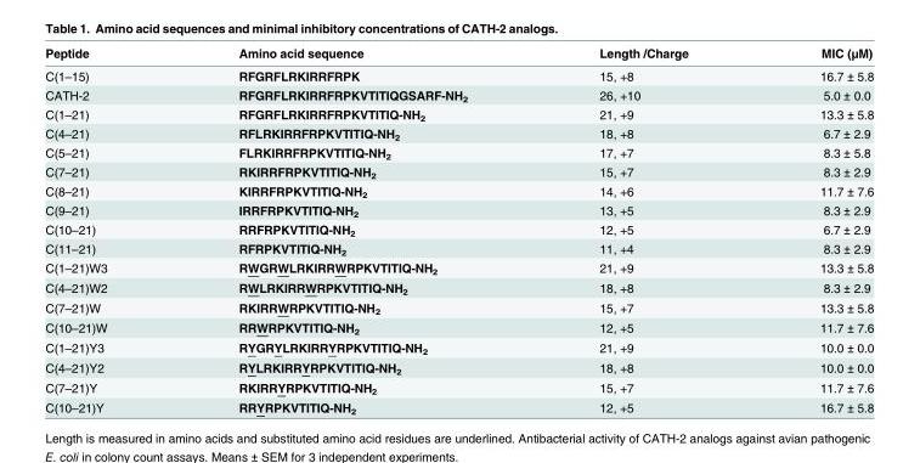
<table><thead><tr><td>Peptide</td><td>Amino acid sequence</td><td>Length /Charge</td><td>MIC (μM)</td></tr></thead><tbody><tr><td>C(1–15)</td><td>RFGRFLRKIRRFRPK</td><td>15, +8</td><td>16.7 ± 5.8</td></tr><tr><td>CATH-2</td><td>RFGRFLRKIRRFRPKVTITIQGSARF-NH<sub>2</sub></td><td>26, +10</td><td>5.0 ± 0.0</td></tr><tr><td>C(1–21)</td><td>RFGRFLRKIRRFRPKVTITIQ-NH<sub>2</sub></td><td>21, +9</td><td>13.3 ± 5.8</td></tr><tr><td>C(4–21)</td><td>RFLRKIRRFRPKVTITIQ-NH<sub>2</sub></td><td>18, +8</td><td>6.7 ± 2.9</td></tr><tr><td>C(5–21)</td><td>FLRKIRRFRPKVTITIQ-NH<sub>2</sub></td><td>17, +7</td><td>8.3 ± 5.8</td></tr><tr><td>C(7–21)</td><td>RKIRRFRPKVTITIQ-NH<sub>2</sub></td><td>15, +7</td><td>8.3 ± 2.9</td></tr><tr><td>C(8–21)</td><td>KIRRFRPKVTITIQ-NH<sub>2</sub></td><td>14, +6</td><td>11.7 ± 7.6</td></tr><tr><td>C(9–21)</td><td>IRRFRPKVTITIQ-NH<sub>2</sub></td><td>13, +5</td><td>8.3 ± 2.9</td></tr><tr><td>C(10–21)</td><td>RRFRPKVTITIQ-NH<sub>2</sub></td><td>12, +5</td><td>6.7 ± 2.9</td></tr><tr><td>C(11–21)</td><td>RFRPKVTITIQ-NH<sub>2</sub></td><td>11, +4</td><td>8.3 ± 2.9</td></tr><tr><td>C(1–21)W3</td><td>RWGRWLRKIRRWRPKVTITIQ-NH<sub>2</sub></td><td>21, +9</td><td>13.3 ± 5.8</td></tr><tr><td>C(4–21)W2</td><td>RWLRKIRRWRPKVTITIQ-NH<sub>2</sub></td><td>18, +8</td><td>8.3 ± 2.9</td></tr><tr><td>C(7–21)W</td><td>RKIRRWRPKVTITIQ-NH<sub>2</sub></td><td>15, +7</td><td>13.3 ± 5.8</td></tr><tr><td>C(10–21)W</td><td>RRWRPKVTITIQ-NH<sub>2</sub></td><td>12, +5</td><td>11.7 ± 7.6</td></tr><tr><td>C(1–21)Y3</td><td>RYGRYLRKIRRYRPKVTITIQ-NH<sub>2</sub></td><td>21, +9</td><td>10.0 ± 0.0</td></tr><tr><td>C(4–21)Y2</td><td>RYLRKIRRYRPKVTITIQ-NH<sub>2</sub></td><td>18, +8</td><td>10.0 ± 0.0</td></tr><tr><td>C(7–21)Y</td><td>RKIRRYRPKVTITIQ-NH<sub>2</sub></td><td>15, +7</td><td>11.7 ± 7.6</td></tr><tr><td>C(10–21)Y</td><td>RRYRPKVTITIQ-NH<sub>2</sub></td><td>12, +5</td><td>16.7 ± 5.8</td></tr></tbody></table>